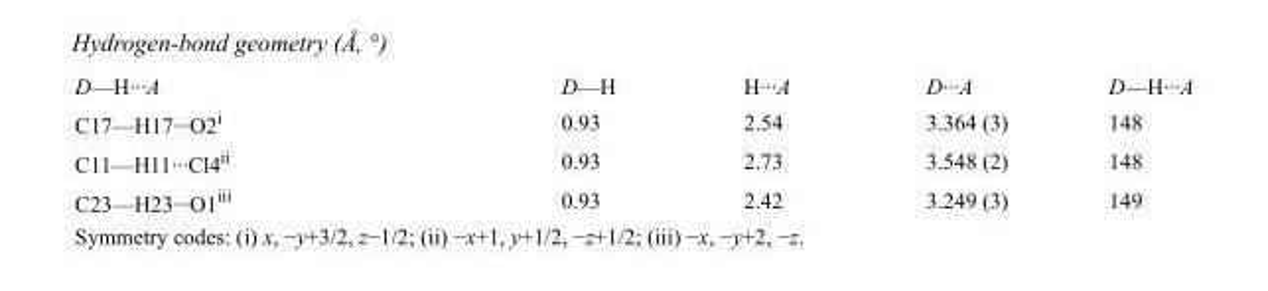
<table><tbody><tr><td>D—H···A</td><td>D—H</td><td>H···A</td><td>D···A</td><td>D—H···A</td></tr><tr><td>C17—H17···O2<sup>i</sup></td><td>0.93</td><td>2.54</td><td>3.364 (3)</td><td>148</td></tr><tr><td>C11—H11···Cl4<sup>ii</sup></td><td>0.93</td><td>2.73</td><td>3.548 (2)</td><td>148</td></tr><tr><td>C23—H23···O1<sup>iii</sup></td><td>0.93</td><td>2.42</td><td>3.249 (3)</td><td>149</td></tr></tbody></table>